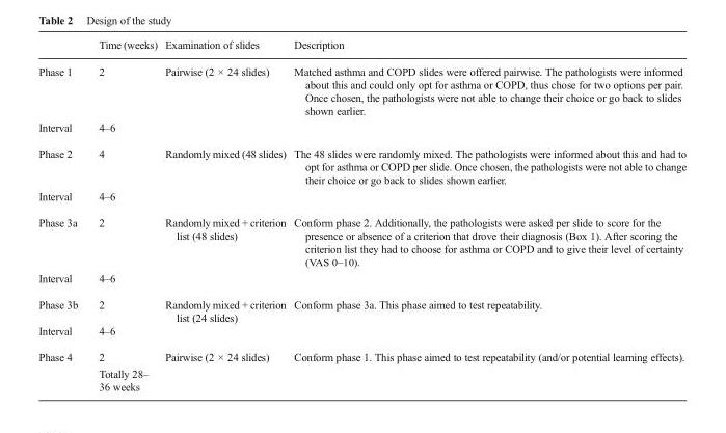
<table><thead><tr><td></td><td>Time (weeks)</td><td>Examination of slides</td><td>Description</td></tr></thead><tbody><tr><td>Phase 1</td><td>2</td><td>Pairwise (2 × 24 slides)</td><td>Matched asthma and COPD slides were offered pairwise. The pathologists were informed about this and could only opt for asthma or COPD, thus chose for two options per pair. Once chosen, the pathologists were not able to change their choice or go back to slides shown earlier.</td></tr><tr><td>Interval</td><td>4–6</td><td></td><td></td></tr><tr><td>Phase 2</td><td>4</td><td>Randomly mixed (48 slides)</td><td>The 48 slides were randomly mixed. The pathologists were informed about this and had to opt for asthma or COPD per slide. Once chosen, the pathologists were not able to change their choice or go back to slides shown earlier.</td></tr><tr><td>Interval</td><td>4–6</td><td></td><td></td></tr><tr><td>Phase 3a</td><td>2</td><td>Randomly mixed + criterion list (48 slides)</td><td>Conform phase 2. Additionally, the pathologists were asked per slide to score for the presence or absence of a criterion that drove their diagnosis (Box 1). After scoring the criterion list they had to choose for asthma or COPD and to give their level of certainty (VAS 0–10).</td></tr><tr><td>Interval</td><td>4–6</td><td></td><td></td></tr><tr><td>Phase 3b</td><td>2</td><td>Randomly mixed + criterion list (24 slides)</td><td>Conform phase 3a. This phase aimed to test repeatability.</td></tr><tr><td>Interval</td><td>4–6</td><td></td><td></td></tr><tr><td rowspan="2">Phase 4</td><td>2</td><td>Pairwise (2 × 24 slides)</td><td>Conform phase 1. This phase aimed to test repeatability (and/or potential learning effects).</td></tr><tr><td>Totally 28– 36 weeks</td><td></td><td></td></tr></tbody></table>